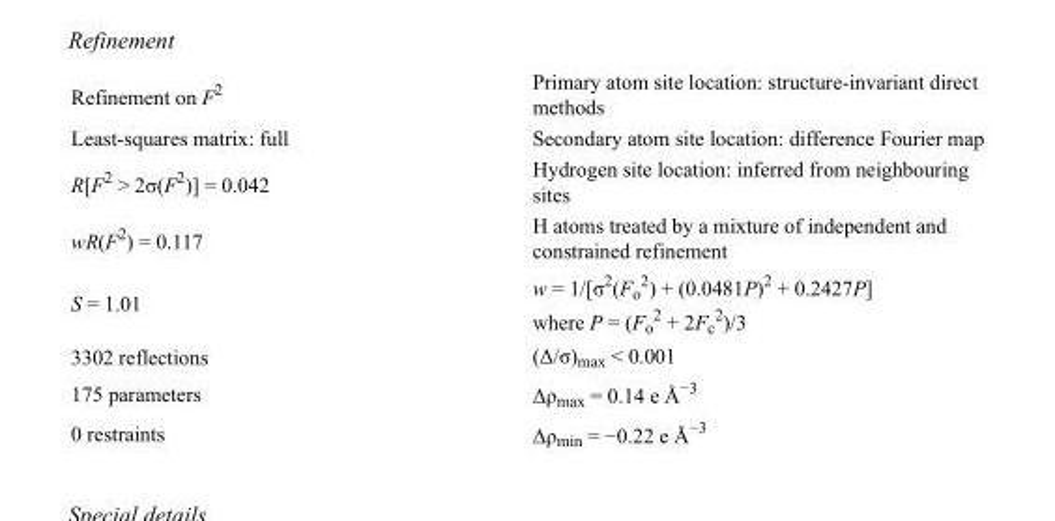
<table><tbody><tr><td>Refinement on F<sup>2</sup></td><td>Primary atom site location: structure-invariant direct methods</td></tr><tr><td>Least-squares matrix: full</td><td>Secondary atom site location: difference Fourier map</td></tr><tr><td>R[F<sup>2</sup> &gt; 2σ(F<sup>2</sup>)] = 0.042</td><td>Hydrogen site location: inferred from neighbouring sites</td></tr><tr><td>wR(F<sup>2</sup>) = 0.117</td><td>H atoms treated by a mixture of independent and constrained refinement</td></tr><tr><td>S = 1.01</td><td>w = 1/[σ<sup>2</sup>(F<sub>o</sub> <sup>2</sup>) + (0.0481P)<sup>2</sup> + 0.2427P] where P = (F<sub>o</sub> <sup>2</sup> + 2F<sub>c</sub> <sup>2</sup>)/3</td></tr><tr><td>3302 reflections</td><td>(Δ/σ)<sub>max</sub> &lt; 0.001</td></tr><tr><td>175 parameters</td><td>Δρ<sub>max</sub> = 0.14 e Å<sup>−3</sup></td></tr><tr><td>0 restraints</td><td>Δρ<sub>min</sub> = −0.22 e Å<sup>−3</sup></td></tr></tbody></table>